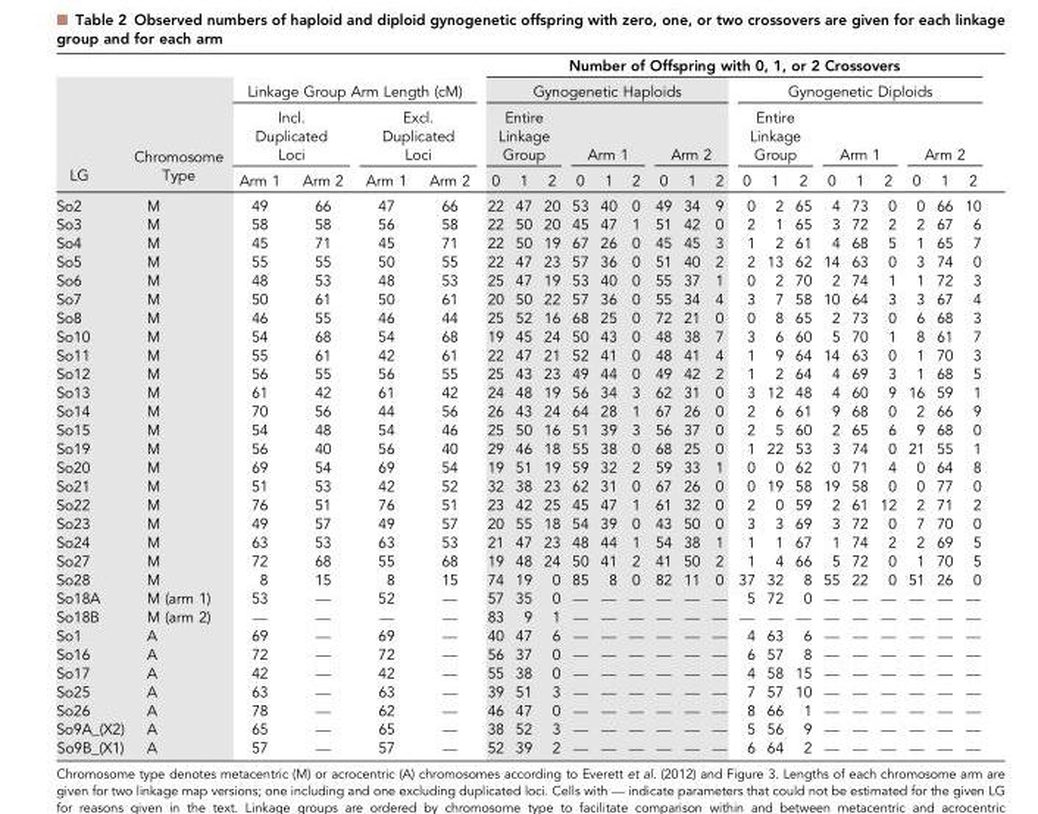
<table><thead><tr><td rowspan="4">LG</td><td rowspan="4">Chromosome Type</td><td></td><td></td><td></td><td></td><td colspan="18">Number of Offspring with 0, 1, or 2 Crossovers</td></tr><tr><td colspan="4">Linkage Group Arm Length (cM)</td><td colspan="9">Gynogenetic Haploids</td><td colspan="9">Gynogenetic Diploids</td></tr><tr><td colspan="2">Incl. Duplicated Loci</td><td colspan="2">Excl. Duplicated Loci</td><td colspan="3">Entire Linkage Group</td><td colspan="3">Arm 1</td><td colspan="3">Arm 2</td><td colspan="3">Entire Linkage Group</td><td colspan="3">Arm 1</td><td colspan="3">Arm 2</td></tr><tr><td>Arm 1</td><td>Arm 2</td><td>Arm 1</td><td>Arm 2</td><td>0</td><td>1</td><td>2</td><td>0</td><td>1</td><td>2</td><td>0</td><td>1</td><td>2</td><td>0</td><td>1</td><td>2</td><td>0</td><td>1</td><td>2</td><td>0</td><td>1</td><td>2</td></tr></thead><tbody><tr><td>So2</td><td>M</td><td>49</td><td>66</td><td>47</td><td>66</td><td>22</td><td>47</td><td>20</td><td>53</td><td>40</td><td>0</td><td>49</td><td>34</td><td>9</td><td>0</td><td>2</td><td>65</td><td>4</td><td>73</td><td>0</td><td>0</td><td>66</td><td>10</td></tr><tr><td>So3</td><td>M</td><td>58</td><td>58</td><td>56</td><td>58</td><td>22</td><td>50</td><td>20</td><td>45</td><td>47</td><td>1</td><td>51</td><td>42</td><td>0</td><td>2</td><td>1</td><td>65</td><td>3</td><td>72</td><td>2</td><td>2</td><td>67</td><td>6</td></tr><tr><td>So4</td><td>M</td><td>45</td><td>71</td><td>45</td><td>71</td><td>22</td><td>50</td><td>19</td><td>67</td><td>26</td><td>0</td><td>45</td><td>45</td><td>3</td><td>1</td><td>2</td><td>61</td><td>4</td><td>68</td><td>5</td><td>1</td><td>65</td><td>7</td></tr><tr><td>So5</td><td>M</td><td>55</td><td>55</td><td>50</td><td>55</td><td>22</td><td>47</td><td>23</td><td>57</td><td>36</td><td>0</td><td>51</td><td>40</td><td>2</td><td>2</td><td>13</td><td>62</td><td>14</td><td>63</td><td>0</td><td>3</td><td>74</td><td>0</td></tr><tr><td>So6</td><td>M</td><td>48</td><td>53</td><td>48</td><td>53</td><td>25</td><td>47</td><td>19</td><td>53</td><td>40</td><td>0</td><td>55</td><td>37</td><td>1</td><td>0</td><td>2</td><td>70</td><td>2</td><td>74</td><td>1</td><td>1</td><td>72</td><td>3</td></tr><tr><td>So7</td><td>M</td><td>50</td><td>61</td><td>50</td><td>61</td><td>20</td><td>50</td><td>22</td><td>57</td><td>36</td><td>0</td><td>55</td><td>34</td><td>4</td><td>3</td><td>7</td><td>58</td><td>10</td><td>64</td><td>3</td><td>3</td><td>67</td><td>4</td></tr><tr><td>So8</td><td>M</td><td>46</td><td>55</td><td>46</td><td>44</td><td>25</td><td>52</td><td>16</td><td>68</td><td>25</td><td>0</td><td>72</td><td>21</td><td>0</td><td>0</td><td>8</td><td>65</td><td>2</td><td>73</td><td>0</td><td>6</td><td>68</td><td>3</td></tr><tr><td>So10</td><td>M</td><td>54</td><td>68</td><td>54</td><td>68</td><td>19</td><td>45</td><td>24</td><td>50</td><td>43</td><td>0</td><td>48</td><td>38</td><td>7</td><td>3</td><td>6</td><td>60</td><td>5</td><td>70</td><td>1</td><td>8</td><td>61</td><td>7</td></tr><tr><td>So11</td><td>M</td><td>55</td><td>61</td><td>42</td><td>61</td><td>22</td><td>47</td><td>21</td><td>52</td><td>41</td><td>0</td><td>48</td><td>41</td><td>4</td><td>1</td><td>9</td><td>64</td><td>14</td><td>63</td><td>0</td><td>1</td><td>70</td><td>3</td></tr><tr><td>So12</td><td>M</td><td>56</td><td>55</td><td>56</td><td>55</td><td>25</td><td>43</td><td>23</td><td>49</td><td>44</td><td>0</td><td>49</td><td>42</td><td>2</td><td>1</td><td>2</td><td>64</td><td>4</td><td>69</td><td>3</td><td>1</td><td>68</td><td>5</td></tr><tr><td>So13</td><td>M</td><td>61</td><td>42</td><td>61</td><td>42</td><td>24</td><td>48</td><td>19</td><td>56</td><td>34</td><td>3</td><td>62</td><td>31</td><td>0</td><td>3</td><td>12</td><td>48</td><td>4</td><td>60</td><td>9</td><td>16</td><td>59</td><td>1</td></tr><tr><td>So14</td><td>M</td><td>70</td><td>56</td><td>44</td><td>56</td><td>26</td><td>43</td><td>24</td><td>64</td><td>28</td><td>1</td><td>67</td><td>26</td><td>0</td><td>2</td><td>6</td><td>61</td><td>9</td><td>68</td><td>0</td><td>2</td><td>66</td><td>9</td></tr><tr><td>So15</td><td>M</td><td>54</td><td>48</td><td>54</td><td>46</td><td>25</td><td>50</td><td>16</td><td>51</td><td>39</td><td>3</td><td>56</td><td>37</td><td>0</td><td>2</td><td>5</td><td>60</td><td>2</td><td>65</td><td>6</td><td>9</td><td>68</td><td>0</td></tr><tr><td>So19</td><td>M</td><td>56</td><td>40</td><td>56</td><td>40</td><td>29</td><td>46</td><td>18</td><td>55</td><td>38</td><td>0</td><td>68</td><td>25</td><td>0</td><td>1</td><td>22</td><td>53</td><td>3</td><td>74</td><td>0</td><td>21</td><td>55</td><td>1</td></tr><tr><td>So20</td><td>M</td><td>69</td><td>54</td><td>69</td><td>54</td><td>19</td><td>51</td><td>19</td><td>59</td><td>32</td><td>2</td><td>59</td><td>33</td><td>1</td><td>0</td><td>0</td><td>62</td><td>0</td><td>71</td><td>4</td><td>0</td><td>64</td><td>8</td></tr><tr><td>So21</td><td>M</td><td>51</td><td>53</td><td>42</td><td>52</td><td>32</td><td>38</td><td>23</td><td>62</td><td>31</td><td>0</td><td>67</td><td>26</td><td>0</td><td>0</td><td>19</td><td>58</td><td>19</td><td>58</td><td>0</td><td>0</td><td>77</td><td>0</td></tr><tr><td>So22</td><td>M</td><td>76</td><td>51</td><td>76</td><td>51</td><td>23</td><td>42</td><td>25</td><td>45</td><td>47</td><td>1</td><td>61</td><td>32</td><td>0</td><td>2</td><td>0</td><td>59</td><td>2</td><td>61</td><td>12</td><td>2</td><td>71</td><td>2</td></tr><tr><td>So23</td><td>M</td><td>49</td><td>57</td><td>49</td><td>57</td><td>20</td><td>55</td><td>18</td><td>54</td><td>39</td><td>0</td><td>43</td><td>50</td><td>0</td><td>3</td><td>3</td><td>69</td><td>3</td><td>72</td><td>0</td><td>7</td><td>70</td><td>0</td></tr><tr><td>So24</td><td>M</td><td>63</td><td>53</td><td>63</td><td>53</td><td>21</td><td>47</td><td>23</td><td>48</td><td>44</td><td>1</td><td>54</td><td>38</td><td>1</td><td>1</td><td>1</td><td>67</td><td>1</td><td>74</td><td>2</td><td>2</td><td>69</td><td>5</td></tr><tr><td>So27</td><td>M</td><td>72</td><td>68</td><td>55</td><td>68</td><td>19</td><td>48</td><td>24</td><td>50</td><td>41</td><td>2</td><td>41</td><td>50</td><td>2</td><td>1</td><td>4</td><td>66</td><td>5</td><td>72</td><td>0</td><td>1</td><td>70</td><td>5</td></tr><tr><td>So28</td><td>M</td><td>8</td><td>15</td><td>8</td><td>15</td><td>74</td><td>19</td><td>0</td><td>85</td><td>8</td><td>0</td><td>82</td><td>11</td><td>0</td><td>37</td><td>32</td><td>8</td><td>55</td><td>22</td><td>0</td><td>51</td><td>26</td><td>0</td></tr><tr><td>So18A</td><td>M (arm 1)</td><td>53</td><td>—</td><td>52</td><td>—</td><td>57</td><td>35</td><td>0</td><td>—</td><td>—</td><td>—</td><td>—</td><td>—</td><td>—</td><td>5</td><td>72</td><td>0</td><td>—</td><td>—</td><td>—</td><td>—</td><td>—</td><td>—</td></tr><tr><td>So18B</td><td>M (arm 2)</td><td>—</td><td>—</td><td>—</td><td>—</td><td>83</td><td>9</td><td>1</td><td>—</td><td>—</td><td>—</td><td>—</td><td>—</td><td>—</td><td>—</td><td>—</td><td>—</td><td>—</td><td>—</td><td>—</td><td>—</td><td>—</td><td>—</td></tr><tr><td>So1</td><td>A</td><td>69</td><td>—</td><td>69</td><td>—</td><td>40</td><td>47</td><td>6</td><td>—</td><td>—</td><td>—</td><td>—</td><td>—</td><td>—</td><td>4</td><td>63</td><td>6</td><td>—</td><td>—</td><td>—</td><td>—</td><td>—</td><td>—</td></tr><tr><td>So16</td><td>A</td><td>72</td><td>—</td><td>72</td><td>—</td><td>56</td><td>37</td><td>0</td><td>—</td><td>—</td><td>—</td><td>—</td><td>—</td><td>—</td><td>6</td><td>57</td><td>8</td><td>—</td><td>—</td><td>—</td><td>—</td><td>—</td><td>—</td></tr><tr><td>So17</td><td>A</td><td>42</td><td>—</td><td>42</td><td>—</td><td>55</td><td>38</td><td>0</td><td>—</td><td>—</td><td>—</td><td>—</td><td>—</td><td>—</td><td>4</td><td>58</td><td>15</td><td>—</td><td>—</td><td>—</td><td>—</td><td>—</td><td>—</td></tr><tr><td>So25</td><td>A</td><td>63</td><td>—</td><td>63</td><td>—</td><td>39</td><td>51</td><td>3</td><td>—</td><td>—</td><td>—</td><td>—</td><td>—</td><td>—</td><td>7</td><td>57</td><td>10</td><td>—</td><td>—</td><td>—</td><td>—</td><td>—</td><td>—</td></tr><tr><td>So26</td><td>A</td><td>78</td><td>—</td><td>62</td><td>—</td><td>46</td><td>47</td><td>0</td><td>—</td><td>—</td><td>—</td><td>—</td><td>—</td><td>—</td><td>8</td><td>66</td><td>1</td><td>—</td><td>—</td><td>—</td><td>—</td><td>—</td><td>—</td></tr><tr><td>So9A_(X2)</td><td>A</td><td>65</td><td>—</td><td>65</td><td>—</td><td>38</td><td>52</td><td>3</td><td>—</td><td>—</td><td>—</td><td>—</td><td>—</td><td>—</td><td>5</td><td>56</td><td>9</td><td>—</td><td>—</td><td>—</td><td>—</td><td>—</td><td>—</td></tr><tr><td>So9B_(X1)</td><td>A</td><td>57</td><td>—</td><td>57</td><td>—</td><td>52</td><td>39</td><td>2</td><td>—</td><td>—</td><td>—</td><td>—</td><td>—</td><td>—</td><td>6</td><td>64</td><td>2</td><td>—</td><td>—</td><td>—</td><td>—</td><td>—</td><td>—</td></tr></tbody></table>